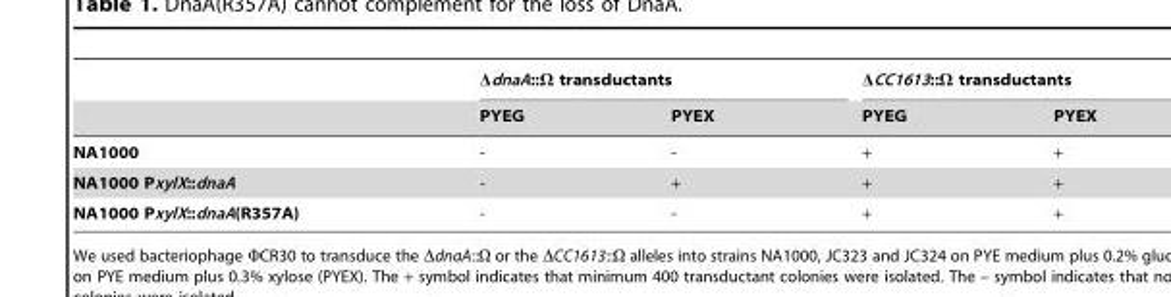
<table><thead><tr><td rowspan="2"></td><td colspan="2">ΔdnaA::Ω transductants</td><td colspan="2">ΔCC1613::Ω transductants</td></tr><tr><td>PYEG</td><td>PYEX</td><td>PYEG</td><td>PYEX</td></tr></thead><tbody><tr><td>NA1000</td><td>-</td><td>-</td><td>+</td><td>+</td></tr><tr><td>NA1000 PxylX::dnaA</td><td>-</td><td>+</td><td>+</td><td>+</td></tr><tr><td>NA1000 PxylX::dnaA(R357A)</td><td>-</td><td>-</td><td>+</td><td>+</td></tr></tbody></table>